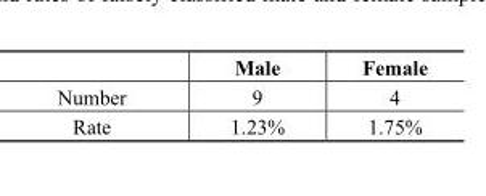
<table><thead><tr><td></td><td>Male</td><td>Female</td></tr></thead><tbody><tr><td>Number</td><td>9</td><td>4</td></tr><tr><td>Rate</td><td>1.23%</td><td>1.75%</td></tr></tbody></table>